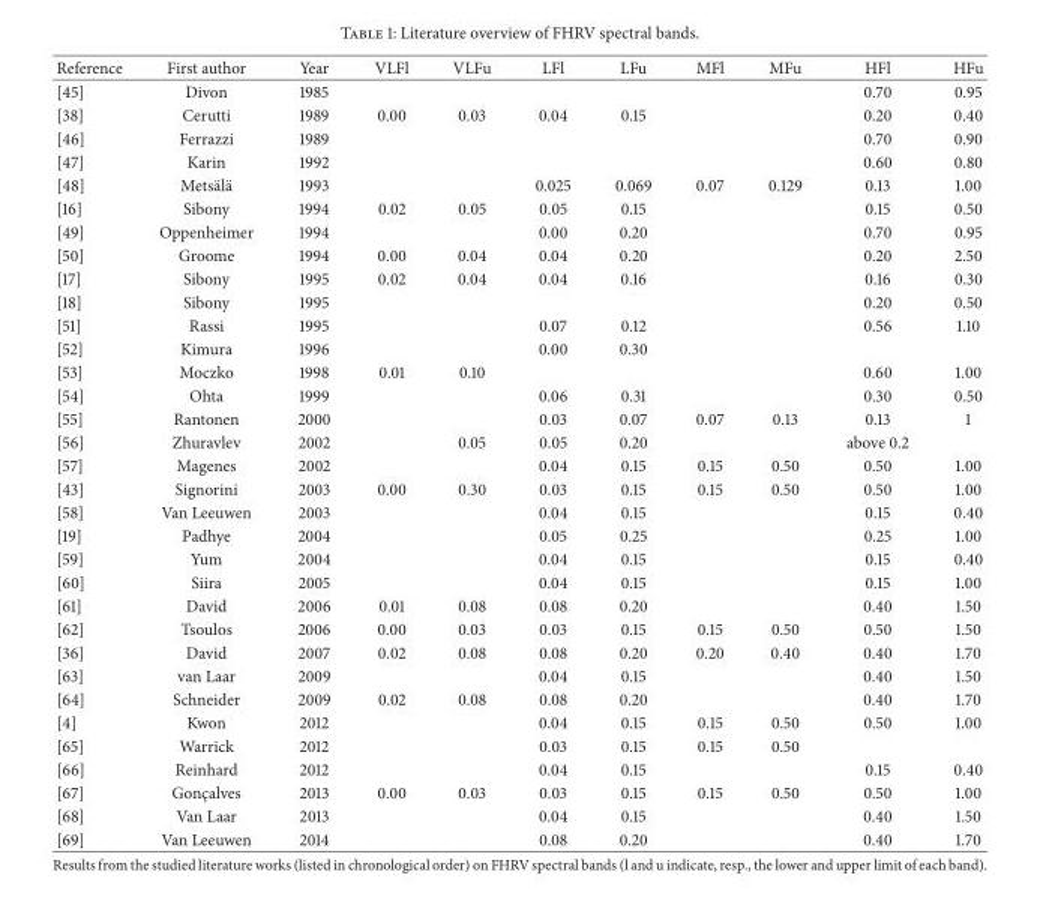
<table><thead><tr><td>Reference</td><td>First author</td><td>Year</td><td>VLFl</td><td>VLFu</td><td>LFl</td><td>LFu</td><td>MFl</td><td>MFu</td><td>HFl</td><td>HFu</td></tr></thead><tbody><tr><td>[45]</td><td>Divon</td><td>1985</td><td></td><td></td><td></td><td></td><td></td><td></td><td>0.70</td><td>0.95</td></tr><tr><td>[38]</td><td>Cerutti</td><td>1989</td><td>0.00</td><td>0.03</td><td>0.04</td><td>0.15</td><td></td><td></td><td>0.20</td><td>0.40</td></tr><tr><td>[46]</td><td>Ferrazzi</td><td>1989</td><td></td><td></td><td></td><td></td><td></td><td></td><td>0.70</td><td>0.90</td></tr><tr><td>[47]</td><td>Karin</td><td>1992</td><td></td><td></td><td></td><td></td><td></td><td></td><td>0.60</td><td>0.80</td></tr><tr><td>[48]</td><td>Mets¨al¨a</td><td>1993</td><td></td><td></td><td>0.025</td><td>0.069</td><td>0.07</td><td>0.129</td><td>0.13</td><td>1.00</td></tr><tr><td>[16]</td><td>Sibony</td><td>1994</td><td>0.02</td><td>0.05</td><td>0.05</td><td>0.15</td><td></td><td></td><td>0.15</td><td>0.50</td></tr><tr><td>[49]</td><td>Oppenheimer</td><td>1994</td><td></td><td></td><td>0.00</td><td>0.20</td><td></td><td></td><td>0.70</td><td>0.95</td></tr><tr><td>[50]</td><td>Groome</td><td>1994</td><td>0.00</td><td>0.04</td><td>0.04</td><td>0.20</td><td></td><td></td><td>0.20</td><td>2.50</td></tr><tr><td>[17]</td><td>Sibony</td><td>1995</td><td>0.02</td><td>0.04</td><td>0.04</td><td>0.16</td><td></td><td></td><td>0.16</td><td>0.30</td></tr><tr><td>[18]</td><td>Sibony</td><td>1995</td><td></td><td></td><td></td><td></td><td></td><td></td><td>0.20</td><td>0.50</td></tr><tr><td>[51]</td><td>Rassi</td><td>1995</td><td></td><td></td><td>0.07</td><td>0.12</td><td></td><td></td><td>0.56</td><td>1.10</td></tr><tr><td>[52]</td><td>Kimura</td><td>1996</td><td></td><td></td><td>0.00</td><td>0.30</td><td></td><td></td><td></td><td></td></tr><tr><td>[53]</td><td>Moczko</td><td>1998</td><td>0.01</td><td>0.10</td><td></td><td></td><td></td><td></td><td>0.60</td><td>1.00</td></tr><tr><td>[54]</td><td>Ohta</td><td>1999</td><td></td><td></td><td>0.06</td><td>0.31</td><td></td><td></td><td>0.30</td><td>0.50</td></tr><tr><td>[55]</td><td>Rantonen</td><td>2000</td><td></td><td></td><td>0.03</td><td>0.07</td><td>0.07</td><td>0.13</td><td>0.13</td><td>1</td></tr><tr><td>[56]</td><td>Zhuravlev</td><td>2002</td><td></td><td>0.05</td><td>0.05</td><td>0.20</td><td></td><td></td><td>above 0.2</td><td></td></tr><tr><td>[57]</td><td>Magenes</td><td>2002</td><td></td><td></td><td>0.04</td><td>0.15</td><td>0.15</td><td>0.50</td><td>0.50</td><td>1.00</td></tr><tr><td>[43]</td><td>Signorini</td><td>2003</td><td>0.00</td><td>0.30</td><td>0.03</td><td>0.15</td><td>0.15</td><td>0.50</td><td>0.50</td><td>1.00</td></tr><tr><td>[58]</td><td>Van Leeuwen</td><td>2003</td><td></td><td></td><td>0.04</td><td>0.15</td><td></td><td></td><td>0.15</td><td>0.40</td></tr><tr><td>[19]</td><td>Padhye</td><td>2004</td><td></td><td></td><td>0.05</td><td>0.25</td><td></td><td></td><td>0.25</td><td>1.00</td></tr><tr><td>[59]</td><td>Yum</td><td>2004</td><td></td><td></td><td>0.04</td><td>0.15</td><td></td><td></td><td>0.15</td><td>0.40</td></tr><tr><td>[60]</td><td>Siira</td><td>2005</td><td></td><td></td><td>0.04</td><td>0.15</td><td></td><td></td><td>0.15</td><td>1.00</td></tr><tr><td>[61]</td><td>David</td><td>2006</td><td>0.01</td><td>0.08</td><td>0.08</td><td>0.20</td><td></td><td></td><td>0.40</td><td>1.50</td></tr><tr><td>[62]</td><td>Tsoulos</td><td>2006</td><td>0.00</td><td>0.03</td><td>0.03</td><td>0.15</td><td>0.15</td><td>0.50</td><td>0.50</td><td>1.50</td></tr><tr><td>[36]</td><td>David</td><td>2007</td><td>0.02</td><td>0.08</td><td>0.08</td><td>0.20</td><td>0.20</td><td>0.40</td><td>0.40</td><td>1.70</td></tr><tr><td>[63]</td><td>van Laar</td><td>2009</td><td></td><td></td><td>0.04</td><td>0.15</td><td></td><td></td><td>0.40</td><td>1.50</td></tr><tr><td>[64]</td><td>Schneider</td><td>2009</td><td>0.02</td><td>0.08</td><td>0.08</td><td>0.20</td><td></td><td></td><td>0.40</td><td>1.70</td></tr><tr><td>[4]</td><td>Kwon</td><td>2012</td><td></td><td></td><td>0.04</td><td>0.15</td><td>0.15</td><td>0.50</td><td>0.50</td><td>1.00</td></tr><tr><td>[65]</td><td>Warrick</td><td>2012</td><td></td><td></td><td>0.03</td><td>0.15</td><td>0.15</td><td>0.50</td><td></td><td></td></tr><tr><td>[66]</td><td>Reinhard</td><td>2012</td><td></td><td></td><td>0.04</td><td>0.15</td><td></td><td></td><td>0.15</td><td>0.40</td></tr><tr><td>[67]</td><td>Gonc¸alves</td><td>2013</td><td>0.00</td><td>0.03</td><td>0.03</td><td>0.15</td><td>0.15</td><td>0.50</td><td>0.50</td><td>1.00</td></tr><tr><td>[68]</td><td>Van Laar</td><td>2013</td><td></td><td></td><td>0.04</td><td>0.15</td><td></td><td></td><td>0.40</td><td>1.50</td></tr><tr><td>[69]</td><td>Van Leeuwen</td><td>2014</td><td></td><td></td><td>0.08</td><td>0.20</td><td></td><td></td><td>0.40</td><td>1.70</td></tr></tbody></table>